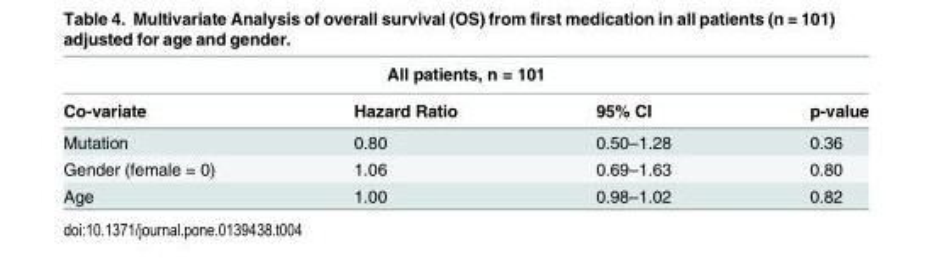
<table><thead><tr><td colspan="4">All patients, n = 101</td></tr><tr><td>Co-variate</td><td>Hazard Ratio</td><td>95% CI</td><td>p-value</td></tr></thead><tbody><tr><td>Mutation</td><td>0.80</td><td>0.50–1.28</td><td>0.36</td></tr><tr><td>Gender (female = 0)</td><td>1.06</td><td>0.69–1.63</td><td>0.80</td></tr><tr><td>Age</td><td>1.00</td><td>0.98–1.02</td><td>0.82</td></tr></tbody></table>